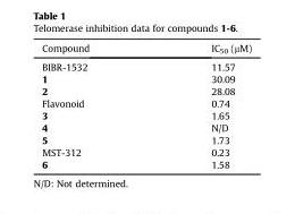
<table><thead><tr><td>Compound</td><td>IC<sub>50</sub> (μM)</td></tr></thead><tbody><tr><td>BIBR-1532</td><td>11.57</td></tr><tr><td>1</td><td>30.09</td></tr><tr><td>2</td><td>28.08</td></tr><tr><td>Flavonoid</td><td>0.74</td></tr><tr><td>3</td><td>1.65</td></tr><tr><td>4</td><td>N/D</td></tr><tr><td>5</td><td>1.73</td></tr><tr><td>MST-312</td><td>0.23</td></tr><tr><td>6</td><td>1.58</td></tr></tbody></table>